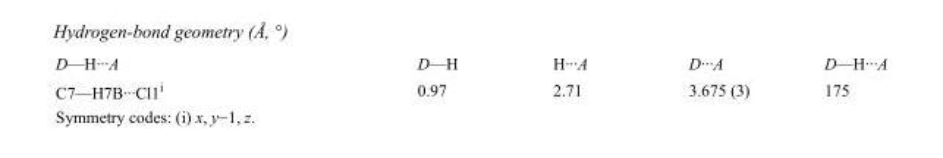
<table><tbody><tr><td>D—H···A</td><td>D—H</td><td>H···A</td><td>D···A</td><td>D—H···A</td></tr><tr><td>C7—H7B···Cl1<sup>i</sup></td><td>0.97</td><td>2.71</td><td>3.675 (3)</td><td>175</td></tr></tbody></table>